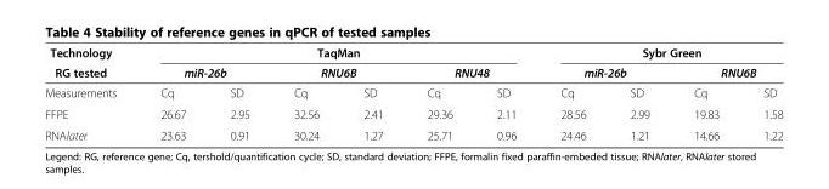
<table><thead><tr><td rowspan="3">Technology RG tested Measurements</td><td colspan="6">TaqMan</td><td colspan="4">Sybr Green</td></tr><tr><td colspan="2">miR-26b</td><td colspan="2">RNU6B</td><td colspan="2">RNU48</td><td colspan="2">miR-26b</td><td colspan="2">RNU6B</td></tr><tr><td>Cq</td><td>SD</td><td>Cq</td><td>SD</td><td>Cq</td><td>SD</td><td>Cq</td><td>SD</td><td>Cq</td><td>SD</td></tr></thead><tbody><tr><td>FFPE</td><td>26.67</td><td>2.95</td><td>32.56</td><td>2.41</td><td>29.36</td><td>2.11</td><td>28.56</td><td>2.99</td><td>19.83</td><td>1.58</td></tr><tr><td>RNAlater</td><td>23.63</td><td>0.91</td><td>30.24</td><td>1.27</td><td>25.71</td><td>0.96</td><td>24.46</td><td>1.21</td><td>14.66</td><td>1.22</td></tr></tbody></table>